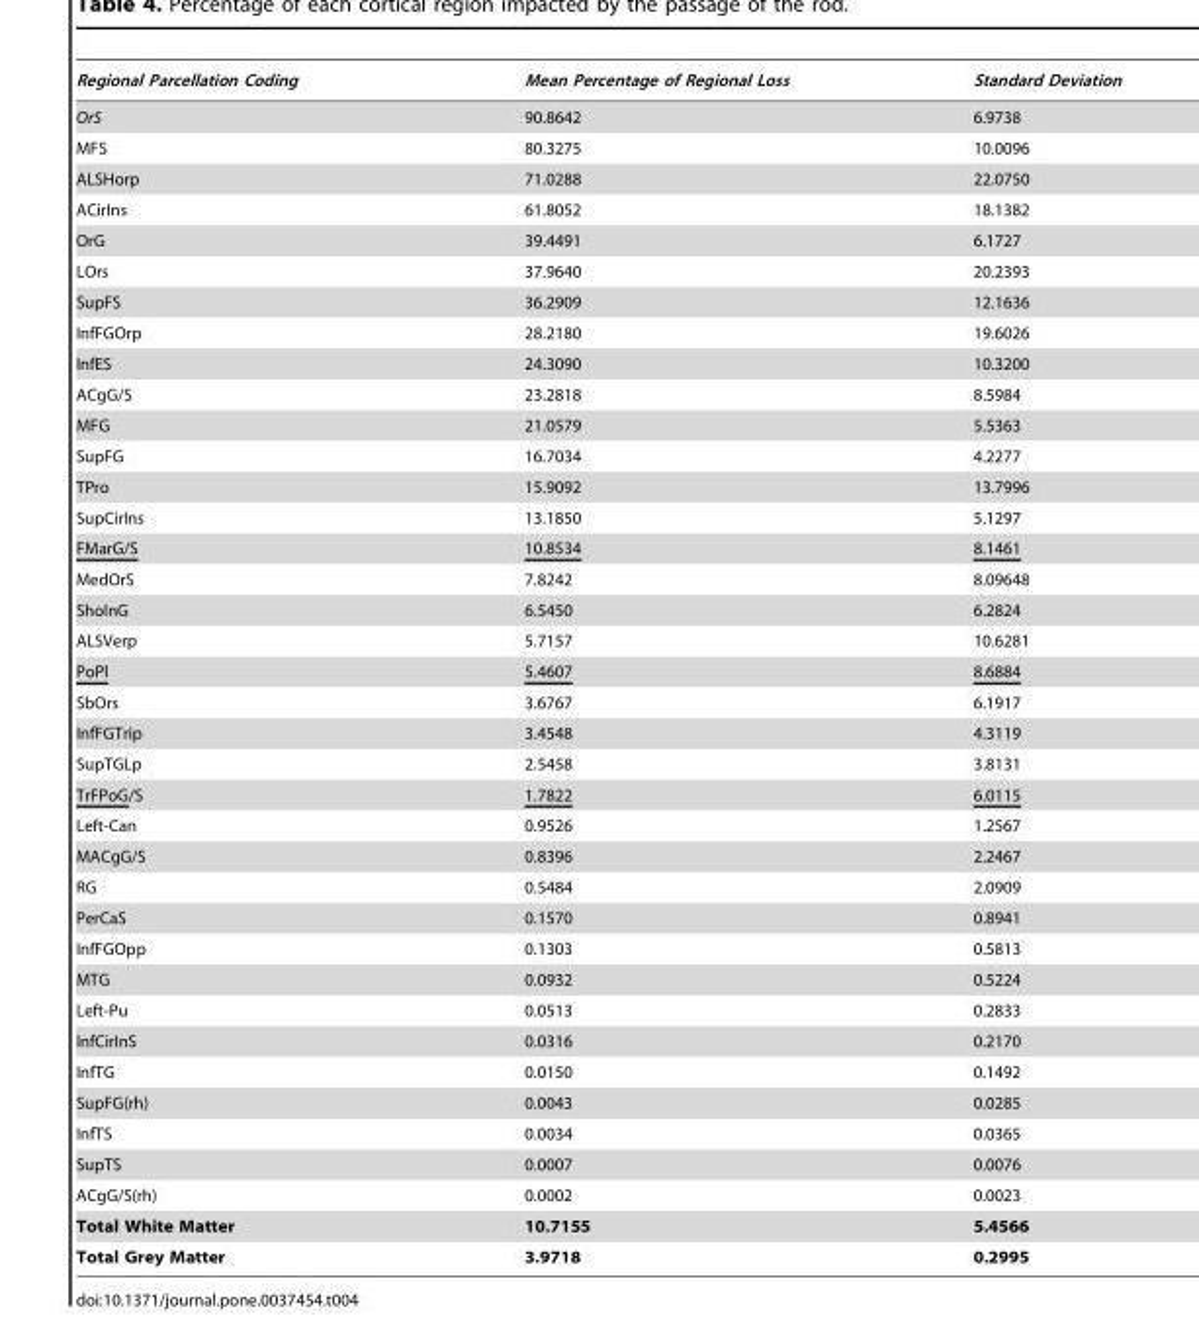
<table><thead><tr><td>Regional Parcellation Coding</td><td>Mean Percentage of Regional Loss</td><td>Standard Deviation</td></tr></thead><tbody><tr><td>OrS</td><td>90.8642</td><td>6.9738</td></tr><tr><td>MFS</td><td>80.3275</td><td>10.0096</td></tr><tr><td>ALSHorp</td><td>71.0288</td><td>22.0750</td></tr><tr><td>ACirIns</td><td>61.8052</td><td>18.1382</td></tr><tr><td>OrG</td><td>39.4491</td><td>6.1727</td></tr><tr><td>LOrs</td><td>37.9640</td><td>20.2393</td></tr><tr><td>SupFS</td><td>36.2909</td><td>12.1636</td></tr><tr><td>InfFGOrp</td><td>28.2180</td><td>19.6026</td></tr><tr><td>InfES</td><td>24.3090</td><td>10.3200</td></tr><tr><td>ACgG/S</td><td>23.2818</td><td>8.5984</td></tr><tr><td>MFG</td><td>21.0579</td><td>5.5363</td></tr><tr><td>SupFG</td><td>16.7034</td><td>4.2277</td></tr><tr><td>TPro</td><td>15.9092</td><td>13.7996</td></tr><tr><td>SupCirIns</td><td>13.1850</td><td>5.1297</td></tr><tr><td>FMarG/S</td><td>10.8534</td><td>8.1461</td></tr><tr><td>MedOrS</td><td>7.8242</td><td>8.09648</td></tr><tr><td>ShoInG</td><td>6.5450</td><td>6.2824</td></tr><tr><td>ALSVerp</td><td>5.7157</td><td>10.6281</td></tr><tr><td>PoPl</td><td>5.4607</td><td>8.6884</td></tr><tr><td>SbOrs</td><td>3.6767</td><td>6.1917</td></tr><tr><td>InfFGTrip</td><td>3.4548</td><td>4.3119</td></tr><tr><td>SupTGLp</td><td>2.5458</td><td>3.8131</td></tr><tr><td>TrFPoG/S</td><td>1.7822</td><td>6.0115</td></tr><tr><td>Left-Can</td><td>0.9526</td><td>1.2567</td></tr><tr><td>MACgG/S</td><td>0.8396</td><td>2.2467</td></tr><tr><td>RG</td><td>0.5484</td><td>2.0909</td></tr><tr><td>PerCaS</td><td>0.1570</td><td>0.8941</td></tr><tr><td>InfFGOpp</td><td>0.1303</td><td>0.5813</td></tr><tr><td>MTG</td><td>0.0932</td><td>0.5224</td></tr><tr><td>Left-Pu</td><td>0.0513</td><td>0.2833</td></tr><tr><td>InfCirInS</td><td>0.0316</td><td>0.2170</td></tr><tr><td>InfTG</td><td>0.0150</td><td>0.1492</td></tr><tr><td>SupFG(rh)</td><td>0.0043</td><td>0.0285</td></tr><tr><td>InfTS</td><td>0.0034</td><td>0.0365</td></tr><tr><td>SupTS</td><td>0.0007</td><td>0.0076</td></tr><tr><td>ACgG/S(rh)</td><td>0.0002</td><td>0.0023</td></tr><tr><td>Total White Matter</td><td>10.7155</td><td>5.4566</td></tr><tr><td>Total Grey Matter</td><td>3.9718</td><td>0.2995</td></tr></tbody></table>